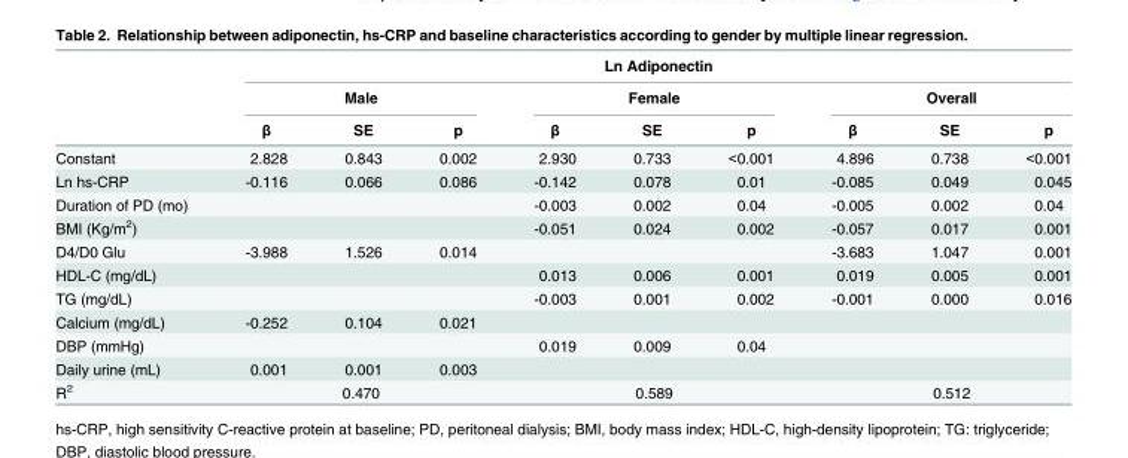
<table><thead><tr><td rowspan="3"></td><td colspan="9">Ln Adiponectin</td></tr><tr><td colspan="3">Male</td><td colspan="3">Female</td><td colspan="3">Overall</td></tr><tr><td>β</td><td>SE</td><td>p</td><td>β</td><td>SE</td><td>p</td><td>β</td><td>SE</td><td>p</td></tr></thead><tbody><tr><td>Constant</td><td>2.828</td><td>0.843</td><td>0.002</td><td>2.930</td><td>0.733</td><td>&lt;0.001</td><td>4.896</td><td>0.738</td><td>&lt;0.001</td></tr><tr><td>Ln hs-CRP</td><td>-0.116</td><td>0.066</td><td>0.086</td><td>-0.142</td><td>0.078</td><td>0.01</td><td>-0.085</td><td>0.049</td><td>0.045</td></tr><tr><td>Duration of PD (mo)</td><td></td><td></td><td></td><td>-0.003</td><td>0.002</td><td>0.04</td><td>-0.005</td><td>0.002</td><td>0.04</td></tr><tr><td>BMI (Kg/m<sup>2</sup>)</td><td></td><td></td><td></td><td>-0.051</td><td>0.024</td><td>0.002</td><td>-0.057</td><td>0.017</td><td>0.001</td></tr><tr><td>D4/D0 Glu</td><td>-3.988</td><td>1.526</td><td>0.014</td><td></td><td></td><td></td><td>-3.683</td><td>1.047</td><td>0.001</td></tr><tr><td>HDL-C (mg/dL)</td><td></td><td></td><td></td><td>0.013</td><td>0.006</td><td>0.001</td><td>0.019</td><td>0.005</td><td>0.001</td></tr><tr><td>TG (mg/dL)</td><td></td><td></td><td></td><td>-0.003</td><td>0.001</td><td>0.002</td><td>-0.001</td><td>0.000</td><td>0.016</td></tr><tr><td>Calcium (mg/dL)</td><td>-0.252</td><td>0.104</td><td>0.021</td><td></td><td></td><td></td><td></td><td></td><td></td></tr><tr><td>DBP (mmHg)</td><td></td><td></td><td></td><td>0.019</td><td>0.009</td><td>0.04</td><td></td><td></td><td></td></tr><tr><td>Daily urine (mL)</td><td>0.001</td><td>0.001</td><td>0.003</td><td></td><td></td><td></td><td></td><td></td><td></td></tr><tr><td>R<sup>2</sup></td><td colspan="3">0.470</td><td colspan="3">0.589</td><td colspan="3">0.512</td></tr></tbody></table>